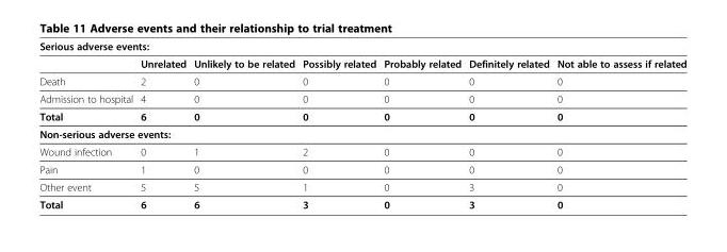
<table><thead><tr><td colspan="7">Serious adverse events:</td></tr><tr><td></td><td>Unrelated</td><td>Unlikely to be related</td><td>Possibly related</td><td>Probably related</td><td>Definitely related</td><td>Not able to assess if related</td></tr></thead><tbody><tr><td>Death</td><td>2</td><td>0</td><td>0</td><td>0</td><td>0</td><td>0</td></tr><tr><td>Admission to hospital</td><td>4</td><td>0</td><td>0</td><td>0</td><td>0</td><td>0</td></tr><tr><td>Total</td><td>6</td><td>0</td><td>0</td><td>0</td><td>0</td><td>0</td></tr><tr><td colspan="7">Non-serious adverse events:</td></tr><tr><td>Wound infection</td><td>0</td><td>1</td><td>2</td><td>0</td><td>0</td><td>0</td></tr><tr><td>Pain</td><td>1</td><td>0</td><td>0</td><td>0</td><td>0</td><td>0</td></tr><tr><td>Other event</td><td>5</td><td>5</td><td>1</td><td>0</td><td>3</td><td>0</td></tr><tr><td>Total</td><td>6</td><td>6</td><td>3</td><td>0</td><td>3</td><td>0</td></tr></tbody></table>